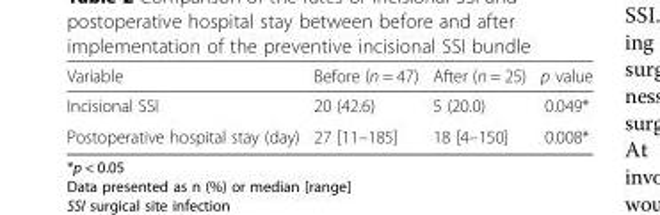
<table><thead><tr><td>Variable</td><td>Before (n = 47)</td><td>After (n = 25)</td><td>p value</td></tr></thead><tbody><tr><td>Incisional SSI</td><td>20 (42.6)</td><td>5 (20.0)</td><td>0.049*</td></tr><tr><td>Postoperative hospital stay (day)</td><td>27 [11–185]</td><td>18 [4–150]</td><td>0.008*</td></tr></tbody></table>